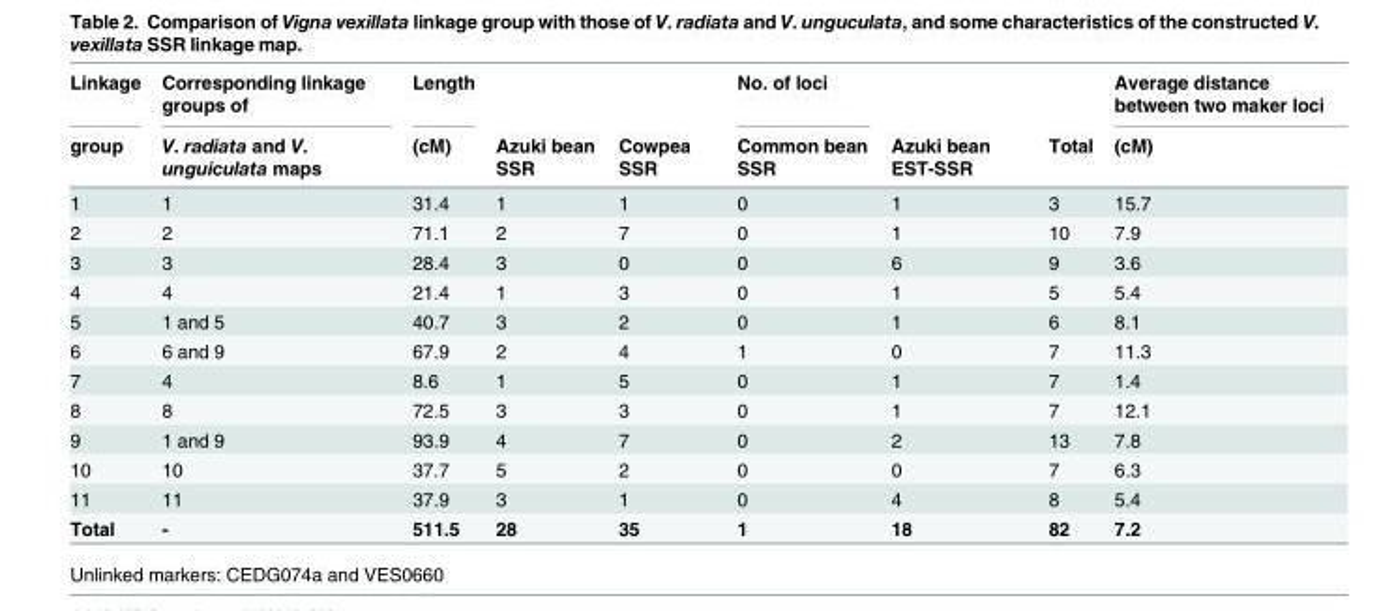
<table><thead><tr><td rowspan="2">Linkage group</td><td rowspan="2">Corresponding linkage groups of V. radiata and V. unguiculata maps</td><td rowspan="2">Length (cM)</td><td rowspan="2">Azuki bean SSR</td><td rowspan="2">Cowpea SSR</td><td rowspan="2">No. of loci Common bean SSR</td><td rowspan="2">Azuki bean EST-SSR</td><td rowspan="2">Total</td><td rowspan="2">Average distance between two maker loci (cM)</td></tr><tr></tr></thead><tbody><tr><td>1</td><td>1</td><td>31.4</td><td>1</td><td>1</td><td>0</td><td>1</td><td>3</td><td>15.7</td></tr><tr><td>2</td><td>2</td><td>71.1</td><td>2</td><td>7</td><td>0</td><td>1</td><td>10</td><td>7.9</td></tr><tr><td>3</td><td>3</td><td>28.4</td><td>3</td><td>0</td><td>0</td><td>6</td><td>9</td><td>3.6</td></tr><tr><td>4</td><td>4</td><td>21.4</td><td>1</td><td>3</td><td>0</td><td>1</td><td>5</td><td>5.4</td></tr><tr><td>5</td><td>1 and 5</td><td>40.7</td><td>3</td><td>2</td><td>0</td><td>1</td><td>6</td><td>8.1</td></tr><tr><td>6</td><td>6 and 9</td><td>67.9</td><td>2</td><td>4</td><td>1</td><td>0</td><td>7</td><td>11.3</td></tr><tr><td>7</td><td>4</td><td>8.6</td><td>1</td><td>5</td><td>0</td><td>1</td><td>7</td><td>1.4</td></tr><tr><td>8</td><td>8</td><td>72.5</td><td>3</td><td>3</td><td>0</td><td>1</td><td>7</td><td>12.1</td></tr><tr><td>9</td><td>1 and 9</td><td>93.9</td><td>4</td><td>7</td><td>0</td><td>2</td><td>13</td><td>7.8</td></tr><tr><td>10</td><td>10</td><td>37.7</td><td>5</td><td>2</td><td>0</td><td>0</td><td>7</td><td>6.3</td></tr><tr><td>11</td><td>11</td><td>37.9</td><td>3</td><td>1</td><td>0</td><td>4</td><td>8</td><td>5.4</td></tr><tr><td>Total</td><td>-</td><td>511.5</td><td>28</td><td>35</td><td>1</td><td>18</td><td>82</td><td>7.2</td></tr></tbody></table>